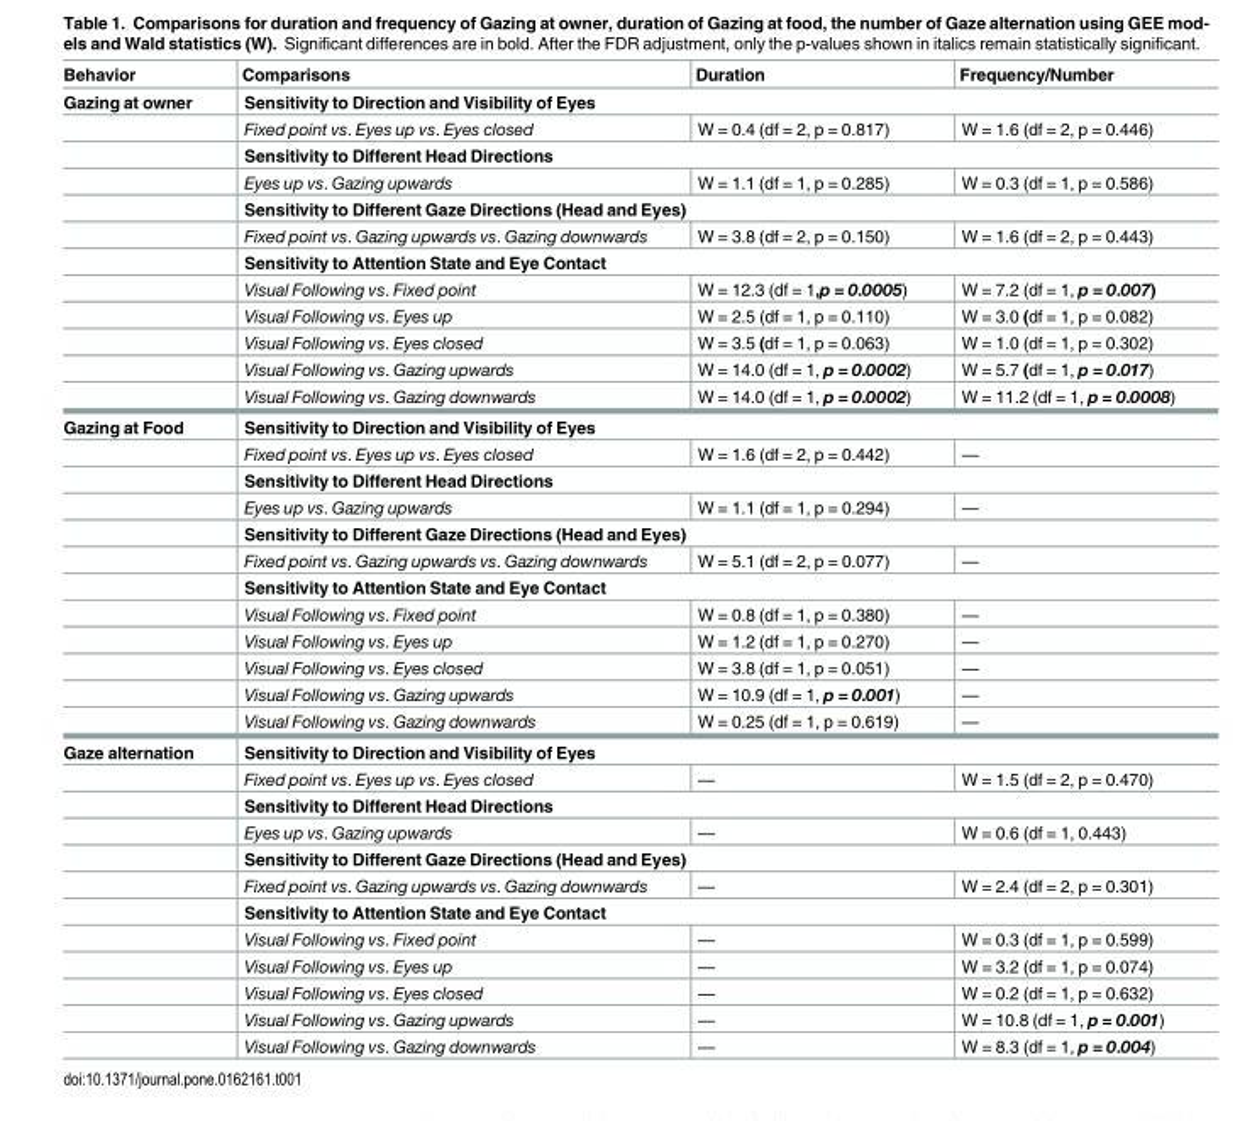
<table><thead><tr><td>Behavior</td><td>Comparisons</td><td>Duration</td><td>Frequency/Number</td></tr></thead><tbody><tr><td rowspan="12">Gazing at owner</td><td colspan="3">Sensitivity to Direction and Visibility of Eyes</td></tr><tr><td>Fixed point vs. Eyes up vs. Eyes closed</td><td>W = 0.4 (df = 2, p = 0.817)</td><td>W = 1.6 (df = 2, p = 0.446)</td></tr><tr><td colspan="3">Sensitivity to Different Head Directions</td></tr><tr><td>Eyes up vs. Gazing upwards</td><td>W = 1.1 (df = 1, p = 0.285)</td><td>W = 0.3 (df = 1, p = 0.586)</td></tr><tr><td colspan="3">Sensitivity to Different Gaze Directions (Head and Eyes)</td></tr><tr><td>Fixed point vs. Gazing upwards vs. Gazing downwards</td><td>W = 3.8 (df = 2, p = 0.150)</td><td>W = 1.6 (df = 2, p = 0.443)</td></tr><tr><td colspan="3">Sensitivity to Attention State and Eye Contact</td></tr><tr><td>Visual Following vs. Fixed point</td><td>W = 12.3 (df = 1,p = 0.0005)</td><td>W = 7.2 (df = 1, p = 0.007)</td></tr><tr><td>Visual Following vs. Eyes up</td><td>W = 2.5 (df = 1, p = 0.110)</td><td>W = 3.0 (df = 1, p = 0.082)</td></tr><tr><td>Visual Following vs. Eyes closed</td><td>W = 3.5 (df = 1, p = 0.063)</td><td>W = 1.0 (df = 1, p = 0.302)</td></tr><tr><td>Visual Following vs. Gazing upwards</td><td>W = 14.0 (df = 1, p = 0.0002)</td><td>W = 5.7 (df = 1, p = 0.017)</td></tr><tr><td>Visual Following vs. Gazing downwards</td><td>W = 14.0 (df = 1, p = 0.0002)</td><td>W = 11.2 (df = 1, p = 0.0008)</td></tr><tr><td rowspan="12">Gazing at Food</td><td colspan="3">Sensitivity to Direction and Visibility of Eyes</td></tr><tr><td>Fixed point vs. Eyes up vs. Eyes closed</td><td>W = 1.6 (df = 2, p = 0.442)</td><td>—</td></tr><tr><td colspan="3">Sensitivity to Different Head Directions</td></tr><tr><td>Eyes up vs. Gazing upwards</td><td>W = 1.1 (df = 1, p = 0.294)</td><td>—</td></tr><tr><td colspan="3">Sensitivity to Different Gaze Directions (Head and Eyes)</td></tr><tr><td>Fixed point vs. Gazing upwards vs. Gazing downwards</td><td>W = 5.1 (df = 2, p = 0.077)</td><td>—</td></tr><tr><td colspan="3">Sensitivity to Attention State and Eye Contact</td></tr><tr><td>Visual Following vs. Fixed point</td><td>W = 0.8 (df = 1, p = 0.380)</td><td>—</td></tr><tr><td>Visual Following vs. Eyes up</td><td>W = 1.2 (df = 1, p = 0.270)</td><td>—</td></tr><tr><td>Visual Following vs. Eyes closed</td><td>W = 3.8 (df = 1, p = 0.051)</td><td>—</td></tr><tr><td>Visual Following vs. Gazing upwards</td><td>W = 10.9 (df = 1, p = 0.001)</td><td>—</td></tr><tr><td>Visual Following vs. Gazing downwards</td><td>W = 0.25 (df = 1, p = 0.619)</td><td>—</td></tr><tr><td rowspan="12">Gaze alternation</td><td colspan="3">Sensitivity to Direction and Visibility of Eyes</td></tr><tr><td>Fixed point vs. Eyes up vs. Eyes closed</td><td>—</td><td>W = 1.5 (df = 2, p = 0.470)</td></tr><tr><td colspan="3">Sensitivity to Different Head Directions</td></tr><tr><td>Eyes up vs. Gazing upwards</td><td>—</td><td>W = 0.6 (df = 1, 0.443)</td></tr><tr><td colspan="3">Sensitivity to Different Gaze Directions (Head and Eyes)</td></tr><tr><td>Fixed point vs. Gazing upwards vs. Gazing downwards</td><td>—</td><td>W = 2.4 (df = 2, p = 0.301)</td></tr><tr><td colspan="3">Sensitivity to Attention State and Eye Contact</td></tr><tr><td>Visual Following vs. Fixed point</td><td>—</td><td>W = 0.3 (df = 1, p = 0.599)</td></tr><tr><td>Visual Following vs. Eyes up</td><td>—</td><td>W = 3.2 (df = 1, p = 0.074)</td></tr><tr><td>Visual Following vs. Eyes closed</td><td>—</td><td>W = 0.2 (df = 1, p = 0.632)</td></tr><tr><td>Visual Following vs. Gazing upwards</td><td>—</td><td>W = 10.8 (df = 1, p = 0.001)</td></tr><tr><td>Visual Following vs. Gazing downwards</td><td>—</td><td>W = 8.3 (df = 1, p = 0.004)</td></tr></tbody></table>